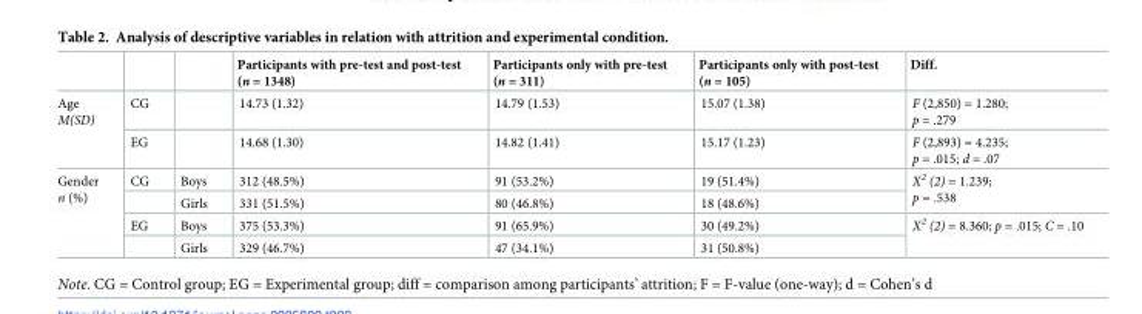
<table><thead><tr><td></td><td></td><td></td><td>Participants with pre-test and post-test (n = 1348)</td><td>Participants only with pre-test (n = 311)</td><td>Participants only with post-test (n = 105)</td><td>Diff.</td></tr></thead><tbody><tr><td rowspan="2">Age M(SD)</td><td>CG</td><td></td><td>14.73 (1.32)</td><td>14.79 (1.53)</td><td>15.07 (1.38)</td><td>F (2,850) = 1.280; p = .279</td></tr><tr><td>EG</td><td></td><td>14.68 (1.30)</td><td>14.82 (1.41)</td><td>15.17 (1.23)</td><td>F (2,893) = 4.235; p = .015; d = .07</td></tr><tr><td rowspan="4">Gender n (%)</td><td>CG</td><td>Boys</td><td>312 (48.5%)</td><td>91 (53.2%)</td><td>19 (51.4%)</td><td rowspan="2">X<sup>2</sup> (2) = 1.239; p = .538</td></tr><tr><td></td><td>Girls</td><td>331 (51.5%)</td><td>80 (46.8%)</td><td>18 (48.6%)</td></tr><tr><td>EG</td><td>Boys</td><td>375 (53.3%)</td><td>91 (65.9%)</td><td>30 (49.2%)</td><td rowspan="2">X<sup>2</sup> (2) = 8.360; p = .015; C = .10</td></tr><tr><td></td><td>Girls</td><td>329 (46.7%)</td><td>47 (34.1%)</td><td>31 (50.8%)</td></tr></tbody></table>